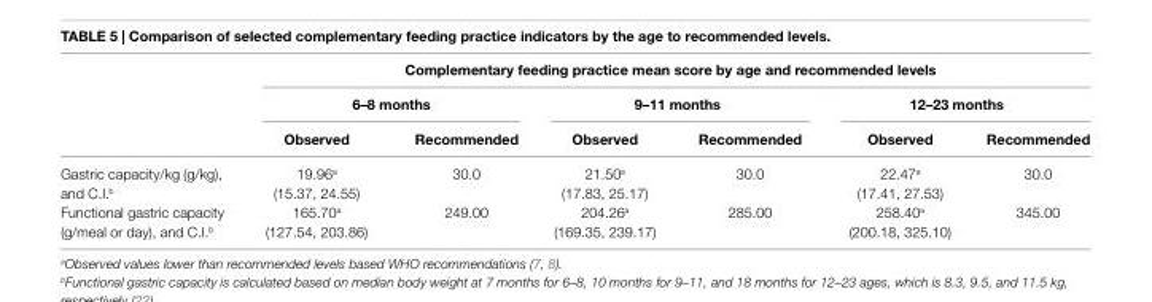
<table><thead><tr><td rowspan="3"></td><td colspan="6">complementary feeding practice mean score by age and recommended levels</td></tr><tr><td colspan="2">6–8 months</td><td colspan="2">9–11 months</td><td colspan="2">12–23 months</td></tr><tr><td>Observed</td><td>recommended</td><td>Observed</td><td>recommended</td><td>Observed</td><td>recommended</td></tr></thead><tbody><tr><td>Gastric capacity/kg (g/kg), and C.I.<sup>b</sup></td><td>19.96<sup>a</sup> (15.37, 24.55)</td><td>30.0</td><td>21.50<sup>a</sup> (17.83, 25.17)</td><td>30.0</td><td>22.47<sup>a</sup> (17.41, 27.53)</td><td>30.0</td></tr><tr><td>Functional gastric capacity (g/meal or day), and C.I.<sup>b</sup></td><td>165.70<sup>a</sup> (127.54, 203.86)</td><td>249.00</td><td>204.26<sup>a</sup> (169.35, 239.17)</td><td>285.00</td><td>258.40<sup>a</sup> (200.18, 325.10)</td><td>345.00</td></tr></tbody></table>